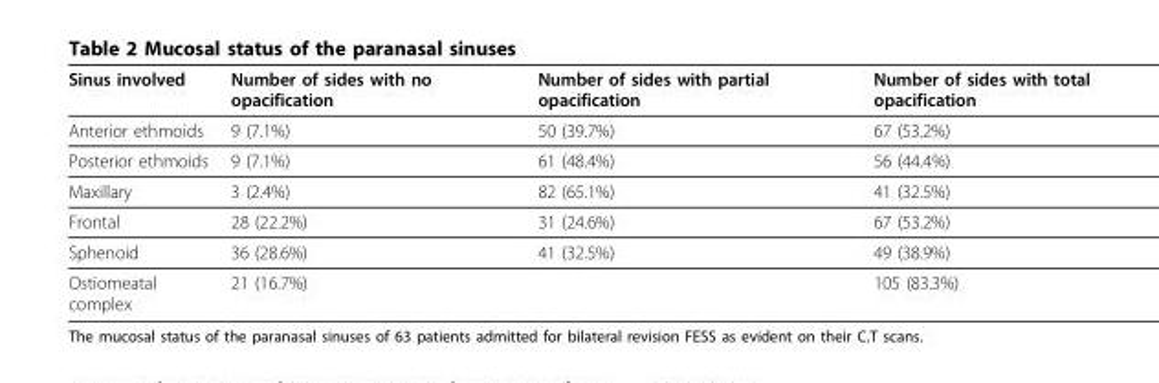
<table><thead><tr><td>Sinus involved</td><td>Number of sides with no opacification</td><td>Number of sides with partial opacification</td><td>Number of sides with total opacification</td></tr></thead><tbody><tr><td>Anterior ethmoids</td><td>9 (7.1%)</td><td>50 (39.7%)</td><td>67 (53.2%)</td></tr><tr><td>Posterior ethmoids</td><td>9 (7.1%)</td><td>61 (48.4%)</td><td>56 (44.4%)</td></tr><tr><td>Maxillary</td><td>3 (2.4%)</td><td>82 (65.1%)</td><td>41 (32.5%)</td></tr><tr><td>Frontal</td><td>28 (22.2%)</td><td>31 (24.6%)</td><td>67 (53.2%)</td></tr><tr><td>Sphenoid</td><td>36 (28.6%)</td><td>41 (32.5%)</td><td>49 (38.9%)</td></tr><tr><td>Ostiomeatal complex</td><td>21 (16.7%)</td><td></td><td>105 (83.3%)</td></tr></tbody></table>